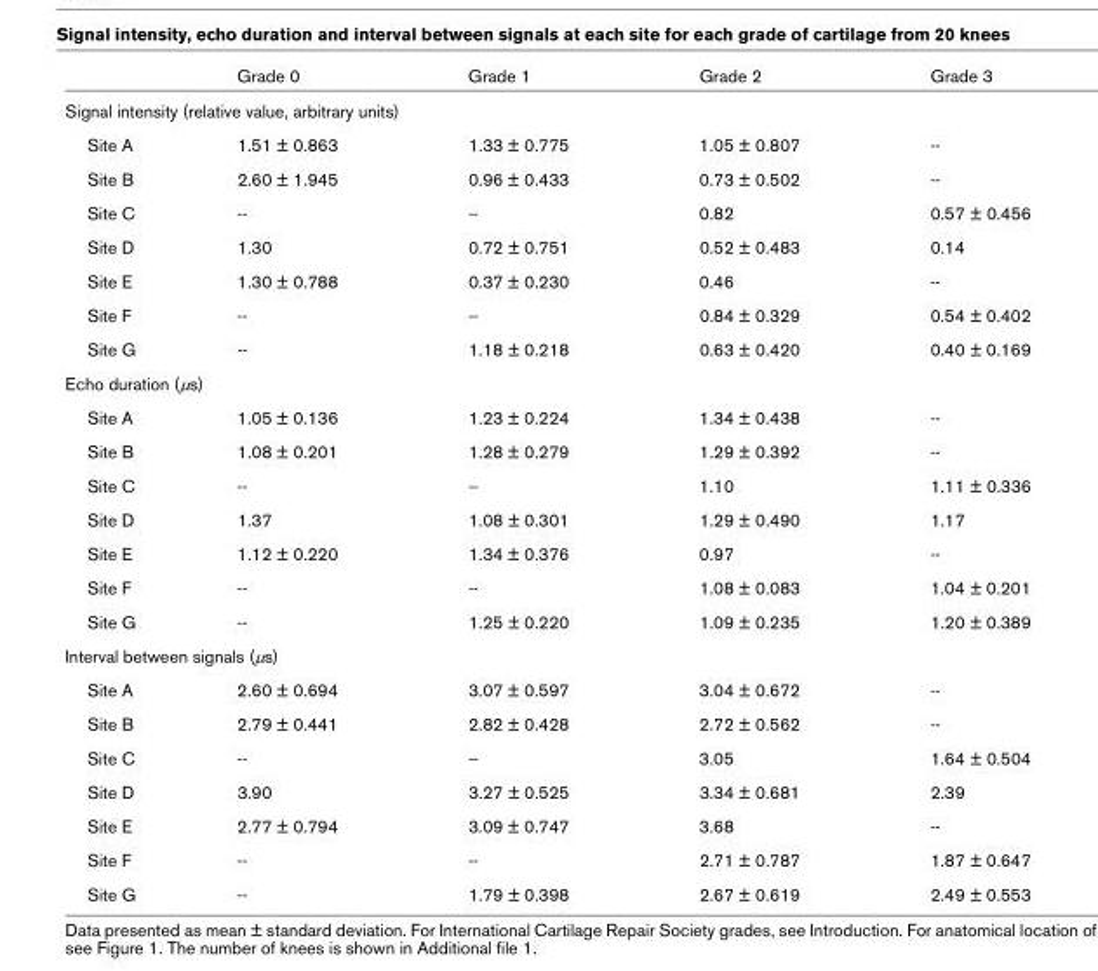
<table><thead><tr><td></td><td>Grade 0</td><td>Grade 1</td><td>Grade 2</td><td>Grade 3</td></tr></thead><tbody><tr><td colspan="5">Signal intensity (relative value, arbitrary units)</td></tr><tr><td>Site A</td><td>1.51 ± 0.863</td><td>1.33 ± 0.775</td><td>1.05 ± 0.807</td><td>--</td></tr><tr><td>Site B</td><td>2.60 ± 1.945</td><td>0.96 ± 0.433</td><td>0.73 ± 0.502</td><td>--</td></tr><tr><td>Site C</td><td>--</td><td>--</td><td>0.82</td><td>0.57 ± 0.456</td></tr><tr><td>Site D</td><td>1.30</td><td>0.72 ± 0.751</td><td>0.52 ± 0.483</td><td>0.14</td></tr><tr><td>Site E</td><td>1.30 ± 0.788</td><td>0.37 ± 0.230</td><td>0.46</td><td>--</td></tr><tr><td>Site F</td><td>--</td><td>--</td><td>0.84 ± 0.329</td><td>0.54 ± 0.402</td></tr><tr><td>Site G</td><td>--</td><td>1.18 ± 0.218</td><td>0.63 ± 0.420</td><td>0.40 ± 0.169</td></tr><tr><td colspan="5">Echo duration (μs)</td></tr><tr><td>Site A</td><td>1.05 ± 0.136</td><td>1.23 ± 0.224</td><td>1.34 ± 0.438</td><td>--</td></tr><tr><td>Site B</td><td>1.08 ± 0.201</td><td>1.28 ± 0.279</td><td>1.29 ± 0.392</td><td>--</td></tr><tr><td>Site C</td><td>--</td><td>--</td><td>1.10</td><td>1.11 ± 0.336</td></tr><tr><td>Site D</td><td>1.37</td><td>1.08 ± 0.301</td><td>1.29 ± 0.490</td><td>1.17</td></tr><tr><td>Site E</td><td>1.12 ± 0.220</td><td>1.34 ± 0.376</td><td>0.97</td><td>--</td></tr><tr><td>Site F</td><td>--</td><td>--</td><td>1.08 ± 0.083</td><td>1.04 ± 0.201</td></tr><tr><td>Site G</td><td>--</td><td>1.25 ± 0.220</td><td>1.09 ± 0.235</td><td>1.20 ± 0.389</td></tr><tr><td colspan="5">Interval between signals (μs)</td></tr><tr><td>Site A</td><td>2.60 ± 0.694</td><td>3.07 ± 0.597</td><td>3.04 ± 0.672</td><td>--</td></tr><tr><td>Site B</td><td>2.79 ± 0.441</td><td>2.82 ± 0.428</td><td>2.72 ± 0.562</td><td>--</td></tr><tr><td>Site C</td><td>--</td><td>--</td><td>3.05</td><td>1.64 ± 0.504</td></tr><tr><td>Site D</td><td>3.90</td><td>3.27 ± 0.525</td><td>3.34 ± 0.681</td><td>2.39</td></tr><tr><td>Site E</td><td>2.77 ± 0.794</td><td>3.09 ± 0.747</td><td>3.68</td><td>--</td></tr><tr><td>Site F</td><td>--</td><td>--</td><td>2.71 ± 0.787</td><td>1.87 ± 0.647</td></tr><tr><td>Site G</td><td>--</td><td>1.79 ± 0.398</td><td>2.67 ± 0.619</td><td>2.49 ± 0.553</td></tr></tbody></table>